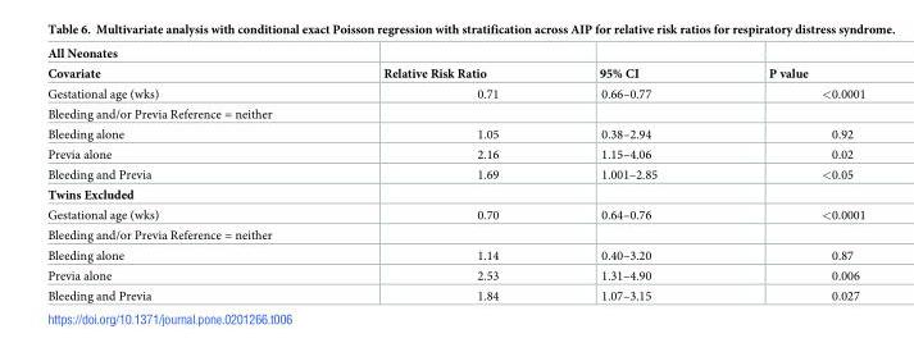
<table><thead><tr><td rowspan="2">All Neonates Covariate</td><td rowspan="2">Relative Risk Ratio</td><td rowspan="2">95% CI</td><td rowspan="2">P value</td></tr><tr></tr></thead><tbody><tr><td>Gestational age (wks)</td><td>0.71</td><td>0.66–0.77</td><td>&lt;0.0001</td></tr><tr><td colspan="4">Bleeding and/or Previa Reference = neither</td></tr><tr><td>Bleeding alone</td><td>1.05</td><td>0.38–2.94</td><td>0.92</td></tr><tr><td>Previa alone</td><td>2.16</td><td>1.15–4.06</td><td>0.02</td></tr><tr><td>Bleeding and Previa</td><td>1.69</td><td>1.001–2.85</td><td>&lt;0.05</td></tr><tr><td colspan="4">Twins Excluded</td></tr><tr><td>Gestational age (wks)</td><td>0.70</td><td>0.64–0.76</td><td>&lt;0.0001</td></tr><tr><td colspan="4">Bleeding and/or Previa Reference = neither</td></tr><tr><td>Bleeding alone</td><td>1.14</td><td>0.40–3.20</td><td>0.87</td></tr><tr><td>Previa alone</td><td>2.53</td><td>1.31–4.90</td><td>0.006</td></tr><tr><td>Bleeding and Previa</td><td>1.84</td><td>1.07–3.15</td><td>0.027</td></tr></tbody></table>